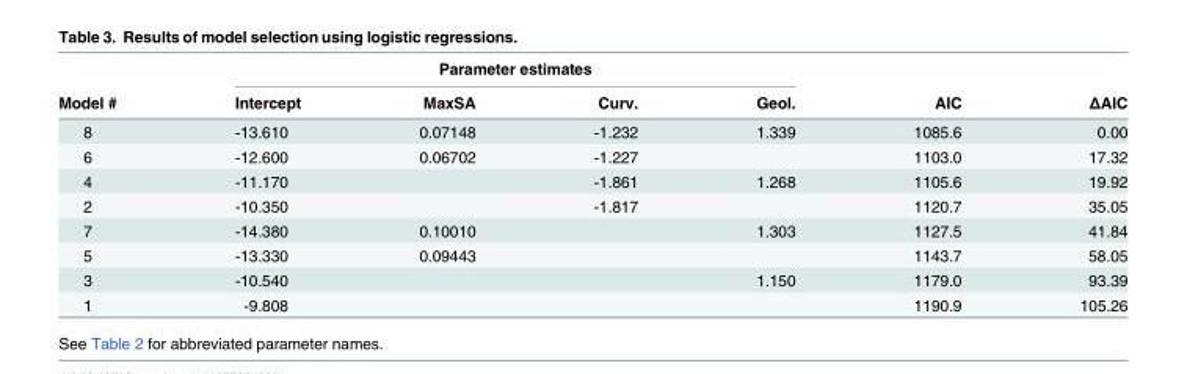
<table><thead><tr><td rowspan="2">Model #</td><td colspan="4">Parameter estimates</td><td rowspan="2">AIC</td><td rowspan="2">ΔAIC</td></tr><tr><td>Intercept</td><td>MaxSA</td><td>Curv.</td><td>Geol.</td></tr></thead><tbody><tr><td>8</td><td>-13.610</td><td>0.07148</td><td>-1.232</td><td>1.339</td><td>1085.6</td><td>0.00</td></tr><tr><td>6</td><td>-12.600</td><td>0.06702</td><td>-1.227</td><td></td><td>1103.0</td><td>17.32</td></tr><tr><td>4</td><td>-11.170</td><td></td><td>-1.861</td><td>1.268</td><td>1105.6</td><td>19.92</td></tr><tr><td>2</td><td>-10.350</td><td></td><td>-1.817</td><td></td><td>1120.7</td><td>35.05</td></tr><tr><td>7</td><td>-14.380</td><td>0.10010</td><td></td><td>1.303</td><td>1127.5</td><td>41.84</td></tr><tr><td>5</td><td>-13.330</td><td>0.09443</td><td></td><td></td><td>1143.7</td><td>58.05</td></tr><tr><td>3</td><td>-10.540</td><td></td><td></td><td>1.150</td><td>1179.0</td><td>93.39</td></tr><tr><td>1</td><td>-9.808</td><td></td><td></td><td></td><td>1190.9</td><td>105.26</td></tr></tbody></table>